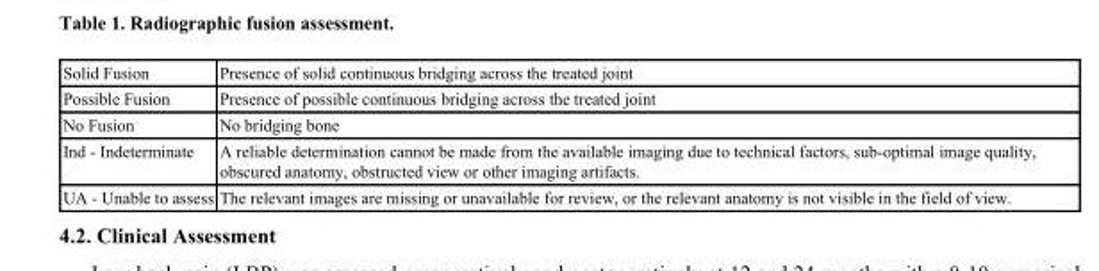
<table><tbody><tr><td>Solid Fusion</td><td>Presence of solid continuous bridging across the treated joint</td></tr><tr><td>Possible Fusion</td><td>Presence of possible continuous bridging across the treated joint</td></tr><tr><td>No Fusion</td><td>No bridging bone</td></tr><tr><td>Ind - Indeterminate</td><td>A reliable determination cannot be made from the available imaging due to technical factors, sub-optimal image quality, obscured anatomy, obstructed view or other imaging artifacts.</td></tr><tr><td>UA - Unable to assess</td><td>The relevant images are missing or unavailable for review, or the relevant anatomy is not visible in the field of view.</td></tr></tbody></table>